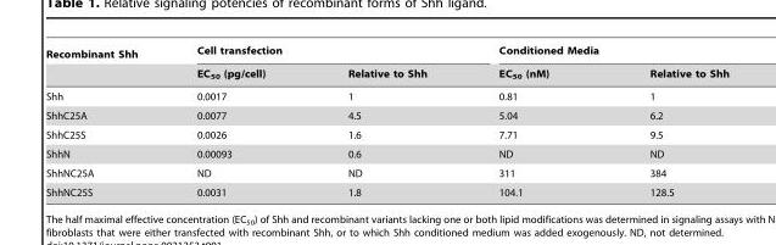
<table><thead><tr><td rowspan="2">Recombinant Shh</td><td colspan="2">Cell transfection</td><td colspan="2">Conditioned Media</td></tr><tr><td>EC<sub>50</sub> (pg/cell)</td><td>Relative to Shh</td><td>EC<sub>50</sub> (nM)</td><td>Relative to Shh</td></tr></thead><tbody><tr><td>Shh</td><td>0.0017</td><td>1</td><td>0.81</td><td>1</td></tr><tr><td>ShhC25A</td><td>0.0077</td><td>4.5</td><td>5.04</td><td>6.2</td></tr><tr><td>ShhC25S</td><td>0.0026</td><td>1.6</td><td>7.71</td><td>9.5</td></tr><tr><td>ShhN</td><td>0.00093</td><td>0.6</td><td>ND</td><td>ND</td></tr><tr><td>ShhNC25A</td><td>ND</td><td>ND</td><td>311</td><td>384</td></tr><tr><td>ShhNC25S</td><td>0.0031</td><td>1.8</td><td>104.1</td><td>128.5</td></tr></tbody></table>